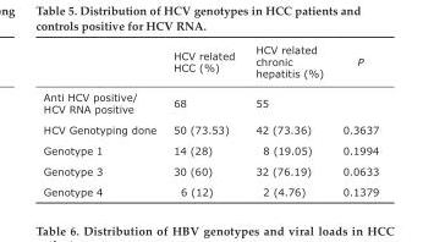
<table><thead><tr><td></td><td>HCV related HCC (%)</td><td>HCV related chronic hepatitis (%)</td><td>P</td></tr></thead><tbody><tr><td>Anti HCV positive/ HCV RNA positive</td><td>68</td><td>55</td><td></td></tr><tr><td>HCV Genotyping done</td><td>50 (73.53)</td><td>42 (73.36)</td><td>0.3637</td></tr><tr><td>Genotype 1</td><td>14 (28)</td><td>8 (19.05)</td><td>0.1994</td></tr><tr><td>Genotype 3</td><td>30 (60)</td><td>32 (76.19)</td><td>0.0633</td></tr><tr><td>Genotype 4</td><td>6 (12)</td><td>2 (4.76)</td><td>0.1379</td></tr></tbody></table>